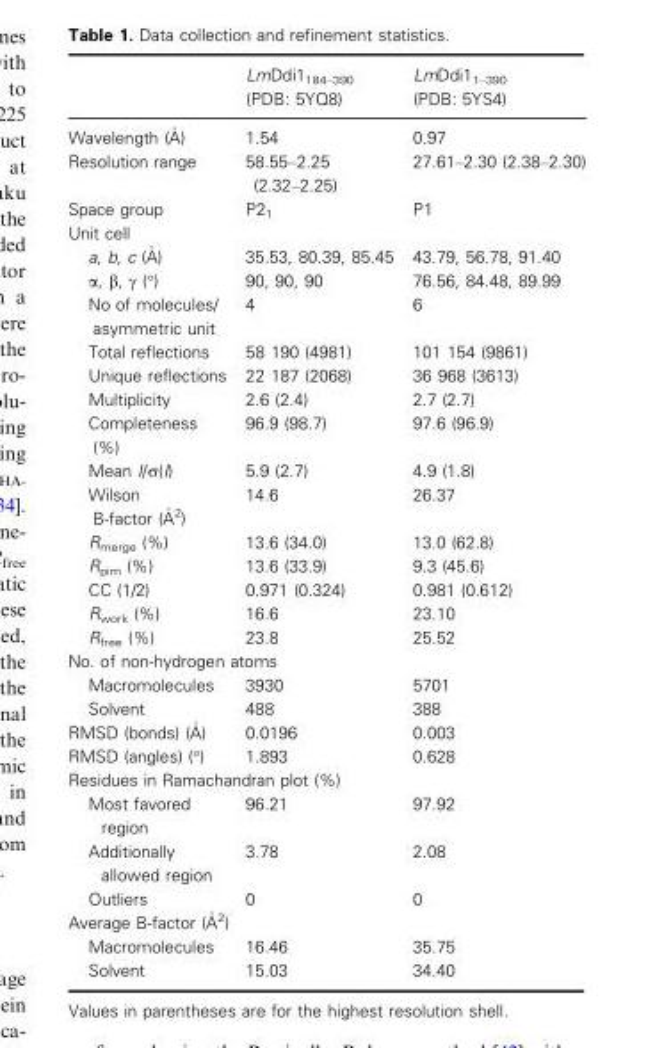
<table><thead><tr><td></td><td>LmDdi1<sub>184–390</sub> (PDB: 5YQ8)</td><td>LmDdi1<sub>1–390</sub> (PDB: 5YS4)</td></tr></thead><tbody><tr><td>Wavelength (�A)</td><td>1.54</td><td>0.97</td></tr><tr><td>Resolution range</td><td>58.55–2.25 (2.32–2.25)</td><td>27.61–2.30 (2.38–2.30)</td></tr><tr><td>Space group</td><td>P2<sub>1</sub></td><td>P1</td></tr><tr><td colspan="3">Unit cell</td></tr><tr><td>a, b, c (�A)</td><td>35.53, 80.39, 85.45</td><td>43.79, 56.78, 91.40</td></tr><tr><td>α, β, γ (°)</td><td>90, 90, 90</td><td>76.56, 84.48, 89.99</td></tr><tr><td>No of molecules/ asymmetric unit</td><td>4</td><td>6</td></tr><tr><td>Total reflections</td><td>58 190 (4981)</td><td>101 154 (9861)</td></tr><tr><td>Unique reflections</td><td>22 187 (2068)</td><td>36 968 (3613)</td></tr><tr><td>Multiplicity</td><td>2.6 (2.4)</td><td>2.7 (2.7)</td></tr><tr><td>Completeness (%)</td><td>96.9 (98.7)</td><td>97.6 (96.9)</td></tr><tr><td>Mean I/σ(I)</td><td>5.9 (2.7)</td><td>4.9 (1.8)</td></tr><tr><td>Wilson B-factor (�A2)</td><td>14.6</td><td>26.37</td></tr><tr><td>R<sub>merge</sub> (%)</td><td>13.6 (34.0)</td><td>13.0 (62.8)</td></tr><tr><td>R<sub>pim</sub> (%)</td><td>13.6 (33.9)</td><td>9.3 (45.6)</td></tr><tr><td>CC (1/2)</td><td>0.971 (0.324)</td><td>0.981 (0.612)</td></tr><tr><td>R<sub>work</sub> (%)</td><td>16.6</td><td>23.10</td></tr><tr><td>R<sub>free</sub> (%)</td><td>23.8</td><td>25.52</td></tr><tr><td colspan="3">No. of non-hydrogen atoms</td></tr><tr><td>Macromolecules</td><td>3930</td><td>5701</td></tr><tr><td>Solvent</td><td>488</td><td>388</td></tr><tr><td>RMSD (bonds) (�A)</td><td>0.0196</td><td>0.003</td></tr><tr><td>RMSD (angles) (°)</td><td>1.893</td><td>0.628</td></tr><tr><td colspan="3">Residues in Ramachandran plot (%)</td></tr><tr><td>Most favored region</td><td>96.21</td><td>97.92</td></tr><tr><td>Additionally allowed region</td><td>3.78</td><td>2.08</td></tr><tr><td>Outliers</td><td>0</td><td>0</td></tr><tr><td colspan="3">Average B-factor (�A2)</td></tr><tr><td>Macromolecules</td><td>16.46</td><td>35.75</td></tr><tr><td>Solvent</td><td>15.03</td><td>34.40</td></tr></tbody></table>